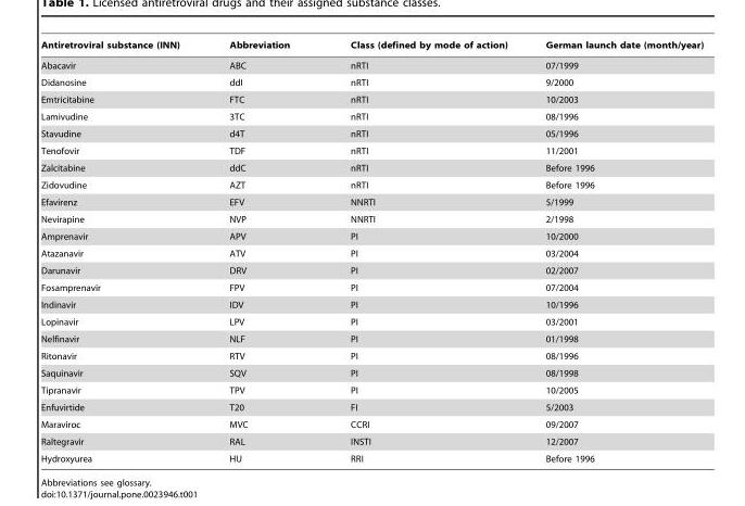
<table><thead><tr><td>Antiretroviral substance (INN)</td><td>Abbreviation</td><td>Class (defined by mode of action)</td><td>German launch date (month/year)</td></tr></thead><tbody><tr><td>Abacavir</td><td>ABC</td><td>nRTI</td><td>07/1999</td></tr><tr><td>Didanosine</td><td>ddI</td><td>nRTI</td><td>9/2000</td></tr><tr><td>Emtricitabine</td><td>FTC</td><td>nRTI</td><td>10/2003</td></tr><tr><td>Lamivudine</td><td>3TC</td><td>nRTI</td><td>08/1996</td></tr><tr><td>Stavudine</td><td>d4T</td><td>nRTI</td><td>05/1996</td></tr><tr><td>Tenofovir</td><td>TDF</td><td>nRTI</td><td>11/2001</td></tr><tr><td>Zalcitabine</td><td>ddC</td><td>nRTI</td><td>Before 1996</td></tr><tr><td>Zidovudine</td><td>AZT</td><td>nRTI</td><td>Before 1996</td></tr><tr><td>Efavirenz</td><td>EFV</td><td>NNRTI</td><td>5/1999</td></tr><tr><td>Nevirapine</td><td>NVP</td><td>NNRTI</td><td>2/1998</td></tr><tr><td>Amprenavir</td><td>APV</td><td>PI</td><td>10/2000</td></tr><tr><td>Atazanavir</td><td>ATV</td><td>PI</td><td>03/2004</td></tr><tr><td>Darunavir</td><td>DRV</td><td>PI</td><td>02/2007</td></tr><tr><td>Fosamprenavir</td><td>FPV</td><td>PI</td><td>07/2004</td></tr><tr><td>Indinavir</td><td>IDV</td><td>PI</td><td>10/1996</td></tr><tr><td>Lopinavir</td><td>LPV</td><td>PI</td><td>03/2001</td></tr><tr><td>Nelfinavir</td><td>NLF</td><td>PI</td><td>01/1998</td></tr><tr><td>Ritonavir</td><td>RTV</td><td>PI</td><td>08/1996</td></tr><tr><td>Saquinavir</td><td>SQV</td><td>PI</td><td>08/1998</td></tr><tr><td>Tipranavir</td><td>TPV</td><td>PI</td><td>10/2005</td></tr><tr><td>Enfuvirtide</td><td>T20</td><td>FI</td><td>5/2003</td></tr><tr><td>Maraviroc</td><td>MVC</td><td>CCRI</td><td>09/2007</td></tr><tr><td>Raltegravir</td><td>RAL</td><td>INSTI</td><td>12/2007</td></tr><tr><td>Hydroxyurea</td><td>HU</td><td>RRI</td><td>Before 1996</td></tr></tbody></table>